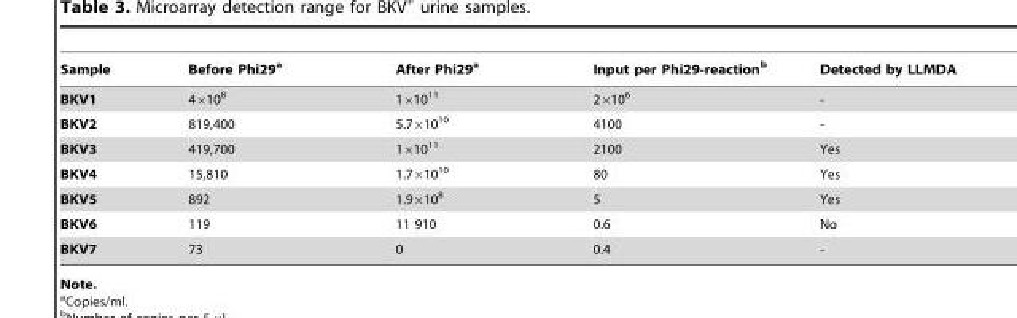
<table><thead><tr><td>Sample</td><td>Before Phi29<sup>a</sup></td><td>After Phi29<sup>a</sup></td><td>Input per Phi29-reaction<sup>b</sup></td><td>Detected by LLMDA</td></tr></thead><tbody><tr><td>BKV1</td><td>4×10<sup>8</sup></td><td>1×10<sup>11</sup></td><td>2×10<sup>6</sup></td><td>-</td></tr><tr><td>BKV2</td><td>819,400</td><td>5.7×10<sup>10</sup></td><td>4100</td><td>-</td></tr><tr><td>BKV3</td><td>419,700</td><td>1×10<sup>11</sup></td><td>2100</td><td>Yes</td></tr><tr><td>BKV4</td><td>15,810</td><td>1.7×10<sup>10</sup></td><td>80</td><td>Yes</td></tr><tr><td>BKV5</td><td>892</td><td>1.9×10<sup>8</sup></td><td>5</td><td>Yes</td></tr><tr><td>BKV6</td><td>119</td><td>11 910</td><td>0.6</td><td>No</td></tr><tr><td>BKV7</td><td>73</td><td>0</td><td>0.4</td><td>-</td></tr></tbody></table>